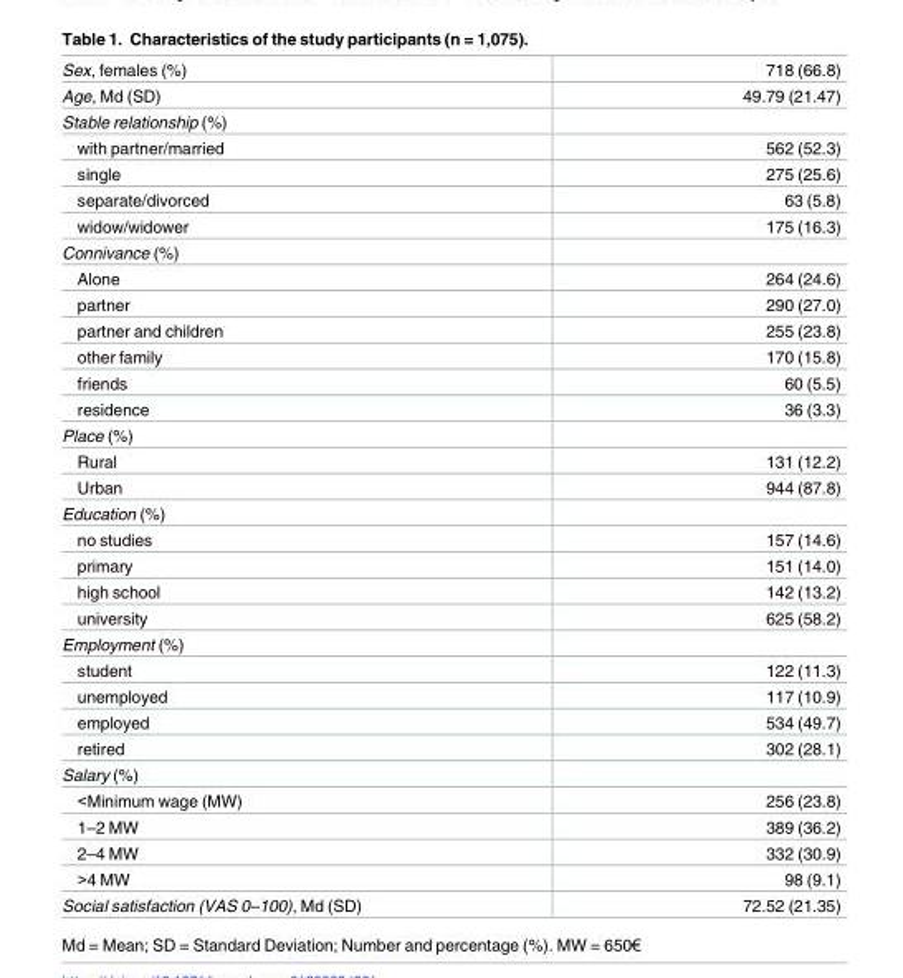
<table><tbody><tr><td>Sex, females (%)</td><td>718 (66.8)</td></tr><tr><td>Age, Md (SD)</td><td>49.79 (21.47)</td></tr><tr><td colspan="2">Stable relationship (%)</td></tr><tr><td>with partner/married</td><td>562 (52.3)</td></tr><tr><td>single</td><td>275 (25.6)</td></tr><tr><td>separate/divorced</td><td>63 (5.8)</td></tr><tr><td>widow/widower</td><td>175 (16.3)</td></tr><tr><td colspan="2">Connivance (%)</td></tr><tr><td>Alone</td><td>264 (24.6)</td></tr><tr><td>partner</td><td>290 (27.0)</td></tr><tr><td>partner and children</td><td>255 (23.8)</td></tr><tr><td>other family</td><td>170 (15.8)</td></tr><tr><td>friends</td><td>60 (5.5)</td></tr><tr><td>residence</td><td>36 (3.3)</td></tr><tr><td colspan="2">Place (%)</td></tr><tr><td>Rural</td><td>131 (12.2)</td></tr><tr><td>Urban</td><td>944 (87.8)</td></tr><tr><td colspan="2">Education (%)</td></tr><tr><td>no studies</td><td>157 (14.6)</td></tr><tr><td>primary</td><td>151 (14.0)</td></tr><tr><td>high school</td><td>142 (13.2)</td></tr><tr><td>university</td><td>625 (58.2)</td></tr><tr><td colspan="2">Employment (%)</td></tr><tr><td>student</td><td>122 (11.3)</td></tr><tr><td>unemployed</td><td>117 (10.9)</td></tr><tr><td>employed</td><td>534 (49.7)</td></tr><tr><td>retired</td><td>302 (28.1)</td></tr><tr><td colspan="2">Salary (%)</td></tr><tr><td>&lt;Minimum wage (MW)</td><td>256 (23.8)</td></tr><tr><td>1–2 MW</td><td>389 (36.2)</td></tr><tr><td>2–4 MW</td><td>332 (30.9)</td></tr><tr><td>&gt;4 MW</td><td>98 (9.1)</td></tr><tr><td>Social satisfaction (VAS 0–100), Md (SD)</td><td>72.52 (21.35)</td></tr></tbody></table>